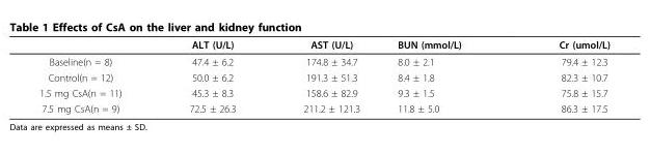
<table><thead><tr><td></td><td>ALT (U/L)</td><td>AST (U/L)</td><td>BUN (mmol/L)</td><td>Cr (umol/L)</td></tr></thead><tbody><tr><td>Baseline(n = 8)</td><td>47.4 ± 6.2</td><td>174.8 ± 34.7</td><td>8.0 ± 2.1</td><td>79.4 ± 12.3</td></tr><tr><td>Control(n = 12)</td><td>50.0 ± 6.2</td><td>191.3 ± 51.3</td><td>8.4 ± 1.8</td><td>82.3 ± 10.7</td></tr><tr><td>1.5 mg CsA(n = 11)</td><td>45.3 ± 8.3</td><td>158.6 ± 82.9</td><td>9.3 ± 1.5</td><td>75.8 ± 15.7</td></tr><tr><td>7.5 mg CsA(n = 9)</td><td>72.5 ± 26.3</td><td>211.2 ± 121.3</td><td>11.8 ± 5.0</td><td>86.3 ± 17.5</td></tr></tbody></table>